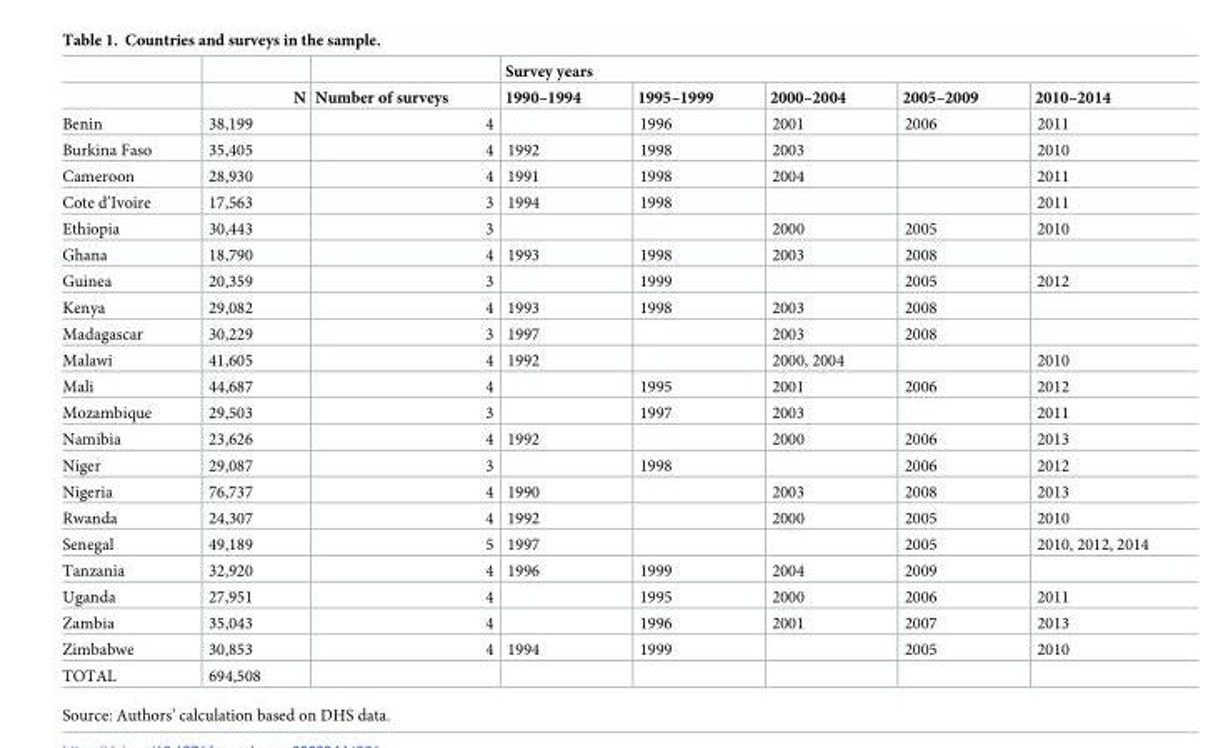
<table><thead><tr><td rowspan="2"></td><td rowspan="2">N</td><td rowspan="2">Number of surveys</td><td colspan="5">Survey years</td></tr><tr><td>1990–1994</td><td>1995–1999</td><td>2000–2004</td><td>2005–2009</td><td>2010–2014</td></tr></thead><tbody><tr><td>Benin</td><td>38,199</td><td>4</td><td></td><td>1996</td><td>2001</td><td>2006</td><td>2011</td></tr><tr><td>Burkina Faso</td><td>35,405</td><td>4</td><td>1992</td><td>1998</td><td>2003</td><td></td><td>2010</td></tr><tr><td>Cameroon</td><td>28,930</td><td>4</td><td>1991</td><td>1998</td><td>2004</td><td></td><td>2011</td></tr><tr><td>Cote d’Ivoire</td><td>17,563</td><td>3</td><td>1994</td><td>1998</td><td></td><td></td><td>2011</td></tr><tr><td>Ethiopia</td><td>30,443</td><td>3</td><td></td><td></td><td>2000</td><td>2005</td><td>2010</td></tr><tr><td>Ghana</td><td>18,790</td><td>4</td><td>1993</td><td>1998</td><td>2003</td><td>2008</td><td></td></tr><tr><td>Guinea</td><td>20,359</td><td>3</td><td></td><td>1999</td><td></td><td>2005</td><td>2012</td></tr><tr><td>Kenya</td><td>29,082</td><td>4</td><td>1993</td><td>1998</td><td>2003</td><td>2008</td><td></td></tr><tr><td>Madagascar</td><td>30,229</td><td>3</td><td>1997</td><td></td><td>2003</td><td>2008</td><td></td></tr><tr><td>Malawi</td><td>41,605</td><td>4</td><td>1992</td><td></td><td>2000, 2004</td><td></td><td>2010</td></tr><tr><td>Mali</td><td>44,687</td><td>4</td><td></td><td>1995</td><td>2001</td><td>2006</td><td>2012</td></tr><tr><td>Mozambique</td><td>29,503</td><td>3</td><td></td><td>1997</td><td>2003</td><td></td><td>2011</td></tr><tr><td>Namibia</td><td>23,626</td><td>4</td><td>1992</td><td></td><td>2000</td><td>2006</td><td>2013</td></tr><tr><td>Niger</td><td>29,087</td><td>3</td><td></td><td>1998</td><td></td><td>2006</td><td>2012</td></tr><tr><td>Nigeria</td><td>76,737</td><td>4</td><td>1990</td><td></td><td>2003</td><td>2008</td><td>2013</td></tr><tr><td>Rwanda</td><td>24,307</td><td>4</td><td>1992</td><td></td><td>2000</td><td>2005</td><td>2010</td></tr><tr><td>Senegal</td><td>49,189</td><td>5</td><td>1997</td><td></td><td></td><td>2005</td><td>2010, 2012, 2014</td></tr><tr><td>Tanzania</td><td>32,920</td><td>4</td><td>1996</td><td>1999</td><td>2004</td><td>2009</td><td></td></tr><tr><td>Uganda</td><td>27,951</td><td>4</td><td></td><td>1995</td><td>2000</td><td>2006</td><td>2011</td></tr><tr><td>Zambia</td><td>35,043</td><td>4</td><td></td><td>1996</td><td>2001</td><td>2007</td><td>2013</td></tr><tr><td>Zimbabwe</td><td>30,853</td><td>4</td><td>1994</td><td>1999</td><td></td><td>2005</td><td>2010</td></tr><tr><td>TOTAL</td><td>694,508</td><td></td><td></td><td></td><td></td><td></td><td></td></tr></tbody></table>